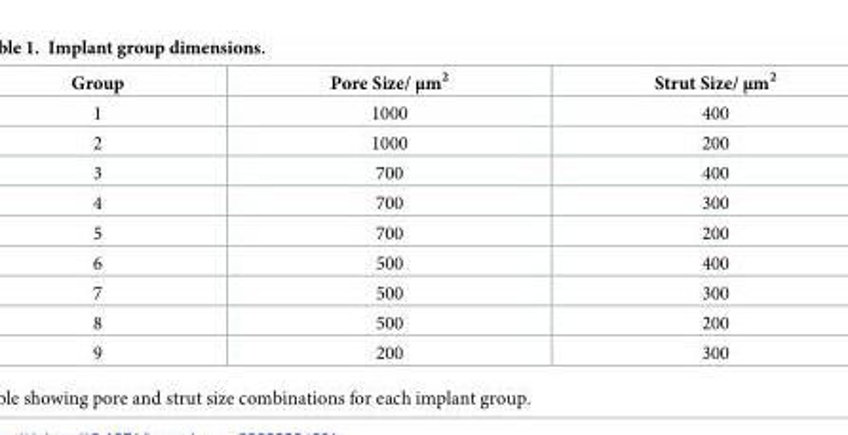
<table><thead><tr><td>Group</td><td>Pore Size/ μm<sup>2</sup></td><td>Strut Size/ μm<sup>2</sup></td></tr></thead><tbody><tr><td>1</td><td>1000</td><td>400</td></tr><tr><td>2</td><td>1000</td><td>200</td></tr><tr><td>3</td><td>700</td><td>400</td></tr><tr><td>4</td><td>700</td><td>300</td></tr><tr><td>5</td><td>700</td><td>200</td></tr><tr><td>6</td><td>500</td><td>400</td></tr><tr><td>7</td><td>500</td><td>300</td></tr><tr><td>8</td><td>500</td><td>200</td></tr><tr><td>9</td><td>200</td><td>300</td></tr></tbody></table>